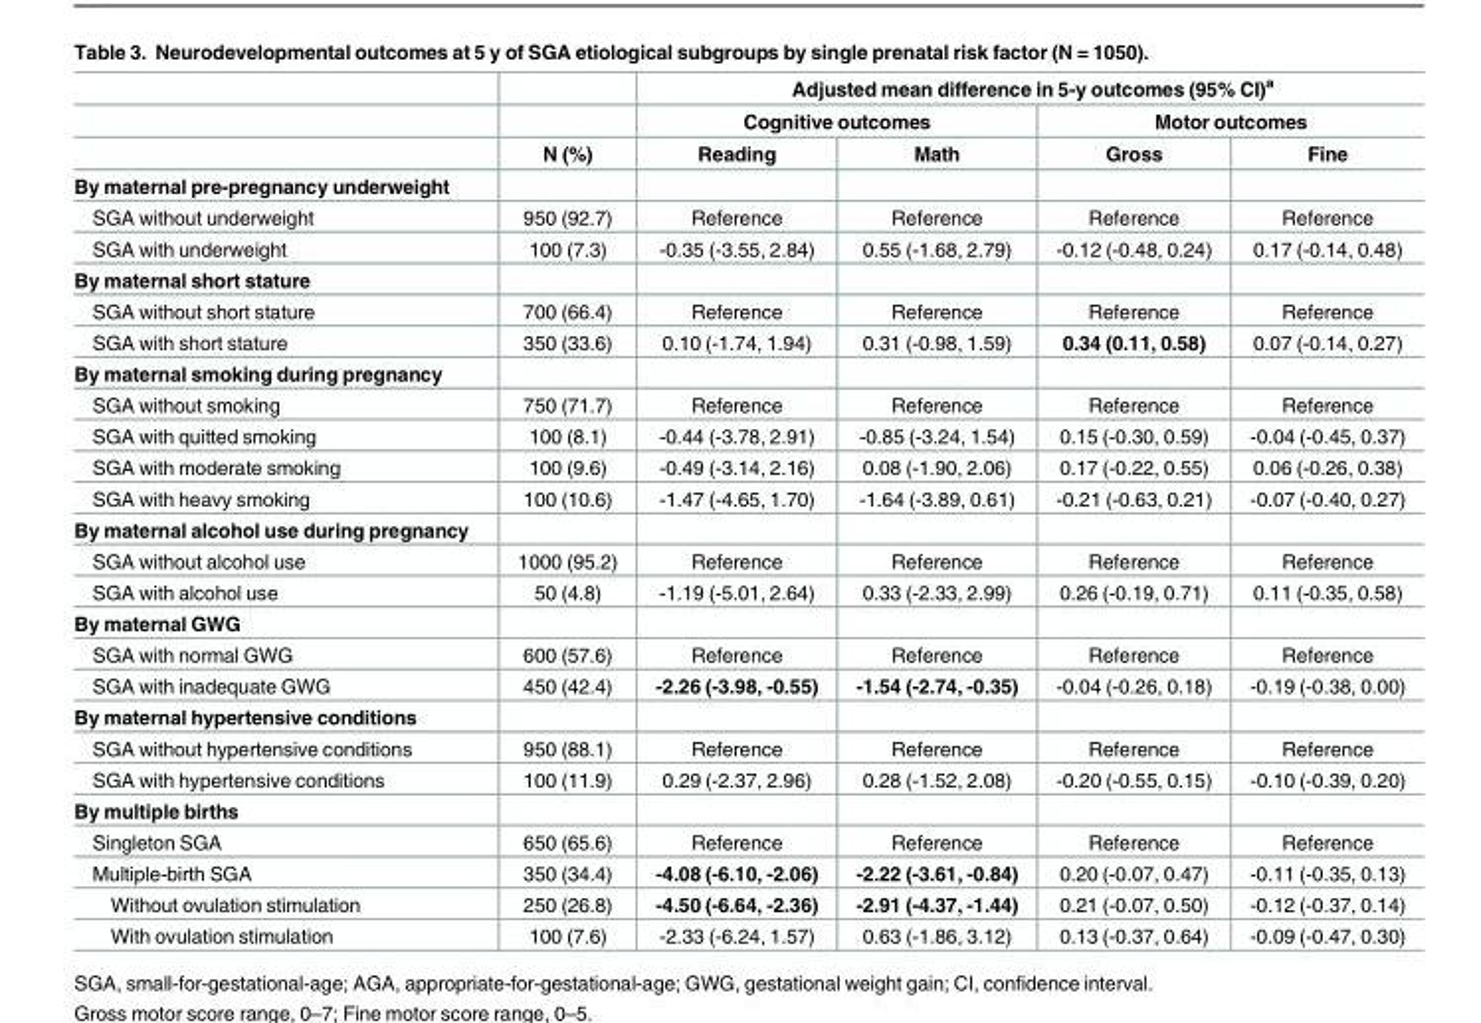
<table><thead><tr><td rowspan="3"></td><td rowspan="3">N (%)</td><td colspan="4">Adjusted mean difference in 5-y outcomes (95% CI)<sup>a</sup></td></tr><tr><td colspan="2">Cognitive outcomes</td><td colspan="2">Motor outcomes</td></tr><tr><td>Reading</td><td>Math</td><td>Gross</td><td>Fine</td></tr></thead><tbody><tr><td colspan="6">By maternal pre-pregnancy underweight</td></tr><tr><td>SGA without underweight</td><td>950 (92.7)</td><td>Reference</td><td>Reference</td><td>Reference</td><td>Reference</td></tr><tr><td>SGA with underweight</td><td>100 (7.3)</td><td>-0.35 (-3.55, 2.84)</td><td>0.55 (-1.68, 2.79)</td><td>-0.12 (-0.48, 0.24)</td><td>0.17 (-0.14, 0.48)</td></tr><tr><td colspan="6">By maternal short stature</td></tr><tr><td>SGA without short stature</td><td>700 (66.4)</td><td>Reference</td><td>Reference</td><td>Reference</td><td>Reference</td></tr><tr><td>SGA with short stature</td><td>350 (33.6)</td><td>0.10 (-1.74, 1.94)</td><td>0.31 (-0.98, 1.59)</td><td>0.34 (0.11, 0.58)</td><td>0.07 (-0.14, 0.27)</td></tr><tr><td colspan="6">By maternal smoking during pregnancy</td></tr><tr><td>SGA without smoking</td><td>750 (71.7)</td><td>Reference</td><td>Reference</td><td>Reference</td><td>Reference</td></tr><tr><td>SGA with quitted smoking</td><td>100 (8.1)</td><td>-0.44 (-3.78, 2.91)</td><td>-0.85 (-3.24, 1.54)</td><td>0.15 (-0.30, 0.59)</td><td>-0.04 (-0.45, 0.37)</td></tr><tr><td>SGA with moderate smoking</td><td>100 (9.6)</td><td>-0.49 (-3.14, 2.16)</td><td>0.08 (-1.90, 2.06)</td><td>0.17 (-0.22, 0.55)</td><td>0.06 (-0.26, 0.38)</td></tr><tr><td>SGA with heavy smoking</td><td>100 (10.6)</td><td>-1.47 (-4.65, 1.70)</td><td>-1.64 (-3.89, 0.61)</td><td>-0.21 (-0.63, 0.21)</td><td>-0.07 (-0.40, 0.27)</td></tr><tr><td colspan="6">By maternal alcohol use during pregnancy</td></tr><tr><td>SGA without alcohol use</td><td>1000 (95.2)</td><td>Reference</td><td>Reference</td><td>Reference</td><td>Reference</td></tr><tr><td>SGA with alcohol use</td><td>50 (4.8)</td><td>-1.19 (-5.01, 2.64)</td><td>0.33 (-2.33, 2.99)</td><td>0.26 (-0.19, 0.71)</td><td>0.11 (-0.35, 0.58)</td></tr><tr><td colspan="6">By maternal GWG</td></tr><tr><td>SGA with normal GWG</td><td>600 (57.6)</td><td>Reference</td><td>Reference</td><td>Reference</td><td>Reference</td></tr><tr><td>SGA with inadequate GWG</td><td>450 (42.4)</td><td>-2.26 (-3.98, -0.55)</td><td>-1.54 (-2.74, -0.35)</td><td>-0.04 (-0.26, 0.18)</td><td>-0.19 (-0.38, 0.00)</td></tr><tr><td colspan="6">By maternal hypertensive conditions</td></tr><tr><td>SGA without hypertensive conditions</td><td>950 (88.1)</td><td>Reference</td><td>Reference</td><td>Reference</td><td>Reference</td></tr><tr><td>SGA with hypertensive conditions</td><td>100 (11.9)</td><td>0.29 (-2.37, 2.96)</td><td>0.28 (-1.52, 2.08)</td><td>-0.20 (-0.55, 0.15)</td><td>-0.10 (-0.39, 0.20)</td></tr><tr><td colspan="6">By multiple births</td></tr><tr><td>Singleton SGA</td><td>650 (65.6)</td><td>Reference</td><td>Reference</td><td>Reference</td><td>Reference</td></tr><tr><td>Multiple-birth SGA</td><td>350 (34.4)</td><td>-4.08 (-6.10, -2.06)</td><td>-2.22 (-3.61, -0.84)</td><td>0.20 (-0.07, 0.47)</td><td>-0.11 (-0.35, 0.13)</td></tr><tr><td>Without ovulation stimulation</td><td>250 (26.8)</td><td>-4.50 (-6.64, -2.36)</td><td>-2.91 (-4.37, -1.44)</td><td>0.21 (-0.07, 0.50)</td><td>-0.12 (-0.37, 0.14)</td></tr><tr><td>With ovulation stimulation</td><td>100 (7.6)</td><td>-2.33 (-6.24, 1.57)</td><td>0.63 (-1.86, 3.12)</td><td>0.13 (-0.37, 0.64)</td><td>-0.09 (-0.47, 0.30)</td></tr></tbody></table>